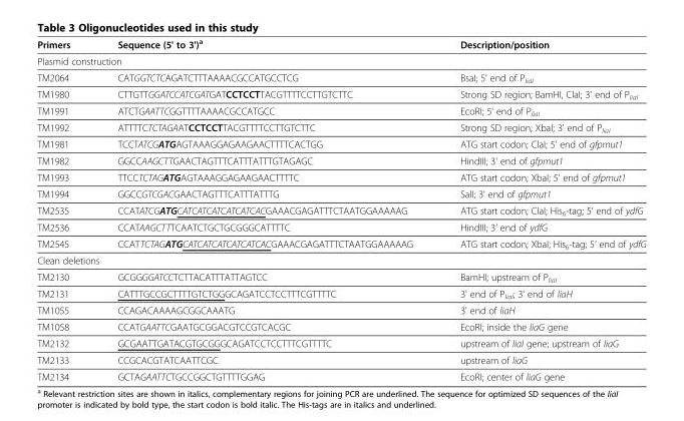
<table><thead><tr><td>Primers</td><td>Sequence (5&#x27; to 3&#x27;)<sup>a</sup></td><td>Description/position</td></tr></thead><tbody><tr><td colspan="3">Plasmid construction</td></tr><tr><td>TM2064</td><td>CATGGTCTCAGATCTTTAAAACGCCATGCCTCG</td><td>BsaI; 5&#x27; end of P<sub>liaI</sub></td></tr><tr><td>TM1980</td><td>CTTGTTGGATCCATCGATGATCCTCCTTACGTTTTCCTTGTCTTC</td><td>Strong SD region; BamHI, ClaI; 3&#x27; end of P<sub>liaI</sub></td></tr><tr><td>TM1991</td><td>ATCTGAATTCGGTTTTAAAACGCCATGCC</td><td>EcoRI; 5&#x27; end of P<sub>liaI</sub></td></tr><tr><td>TM1992</td><td>ATTTTCTCTAGAATCCTCCTTACGTTTTCCTTGTCTTC</td><td>Strong SD region; XbaI; 3&#x27; end of P<sub>liaI</sub></td></tr><tr><td>TM1981</td><td>TCCTATCGATGAGTAAAGGAGAAGAACTTTTCACTGG</td><td>ATG start codon; ClaI; 5&#x27; end of gfpmut1</td></tr><tr><td>TM1982</td><td>GGCCAAGCTTGAACTAGTTTCATTTATTTGTAGAGC</td><td>HindIII; 3&#x27; end of gfpmut1</td></tr><tr><td>TM1993</td><td>TTCCTCTAGATGAGTAAAGGAGAAGAACTTTTC</td><td>ATG start codon; XbaI; 5&#x27; end of gfpmut1</td></tr><tr><td>TM1994</td><td>GGCCGTCGACGAACTAGTTTCATTTATTTG</td><td>SalI; 3&#x27; end of gfpmut1</td></tr><tr><td>TM2535</td><td>CCATATCGATGCATCATCATCATCATCACGAAACGAGATTTCTAATGGAAAAAG</td><td>ATG start codon; ClaI; His<sub>6</sub>-tag; 5’ end of ydfG</td></tr><tr><td>TM2536</td><td>CCATAAGCTTTCAATCTGCTGCGGGCATTTTC</td><td>HindIII; 3’ end of ydfG</td></tr><tr><td>TM2545</td><td>CCATTCTAGATGCATCATCATCATCATCACGAAACGAGATTTCTAATGGAAAAAG</td><td>ATG start codon; XbaI; His<sub>6</sub>-tag; 5’ end of ydfG</td></tr><tr><td colspan="3">Clean deletions</td></tr><tr><td>TM2130</td><td>GCGGGGATCCTCTTACATTTATTAGTCC</td><td>BamHI; upstream of P<sub>liaI</sub></td></tr><tr><td>TM2131</td><td>CATTTGCCGCTTTTGTCTGGGCAGATCCTCCTTTCGTTTTC</td><td>3&#x27; end of P<sub>liaI</sub>; 3&#x27; end of liaH</td></tr><tr><td>TM1055</td><td>CCAGACAAAAGCGGCAAATG</td><td>3&#x27; end of liaH</td></tr><tr><td>TM1058</td><td>CCATGAATTCGAATGCGGACGTCCGTCACGC</td><td>EcoRI; inside the liaG gene</td></tr><tr><td>TM2132</td><td>GCGAATTGATACGTGCGGGCAGATCCTCCTTTCGTTTTC</td><td>upstream of liaI gene; upstream of liaG</td></tr><tr><td>TM2133</td><td>CCGCACGTATCAATTCGC</td><td>upstream of liaG</td></tr><tr><td>TM2134</td><td>GCTAGAATTCTGCCGGCTGTTTTGGAG</td><td>EcoRI; center of liaG gene</td></tr></tbody></table>